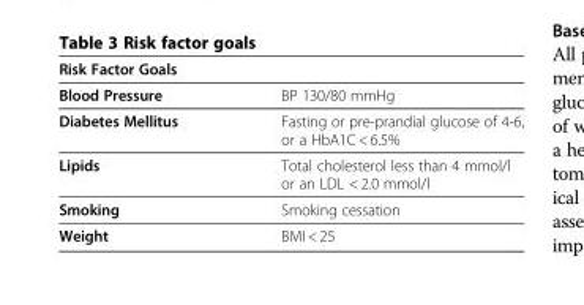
<table><thead><tr><td>Risk Factor Goals</td><td></td></tr></thead><tbody><tr><td>Blood Pressure</td><td>BP 130/80 mmHg</td></tr><tr><td>Diabetes Mellitus</td><td>Fasting or pre-prandial glucose of 4-6, or a HbA1C &lt; 6.5%</td></tr><tr><td>Lipids</td><td>Total cholesterol less than 4 mmol/l or an LDL &lt; 2.0 mmol/l</td></tr><tr><td>Smoking</td><td>Smoking cessation</td></tr><tr><td>Weight</td><td>BMI &lt; 25</td></tr></tbody></table>